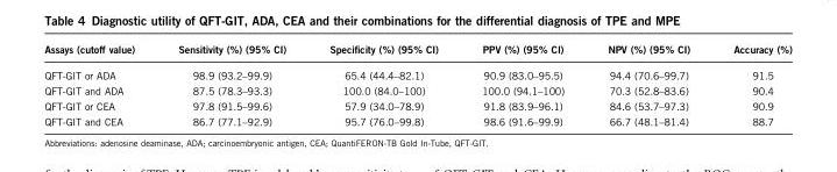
<table><thead><tr><td>Assays (cutoff value)</td><td>Sensitivity (%) (95% CI)</td><td>Specificity (%) (95% CI)</td><td>PPV (%) (95% CI)</td><td>NPV (%) (95% CI)</td><td>Accuracy (%)</td></tr></thead><tbody><tr><td>QFT-GIT or ADA</td><td>98.9 (93.2–99.9)</td><td>65.4 (44.4–82.1)</td><td>90.9 (83.0–95.5)</td><td>94.4 (70.6–99.7)</td><td>91.5</td></tr><tr><td>QFT-GIT and ADA</td><td>87.5 (78.3–93.3)</td><td>100.0 (84.0–100)</td><td>100.0 (94.1–100)</td><td>70.3 (52.8–83.6)</td><td>90.4</td></tr><tr><td>QFT-GIT or CEA</td><td>97.8 (91.5–99.6)</td><td>57.9 (34.0–78.9)</td><td>91.8 (83.9–96.1)</td><td>84.6 (53.7–97.3)</td><td>90.9</td></tr><tr><td>QFT-GIT and CEA</td><td>86.7 (77.1–92.9)</td><td>95.7 (76.0–99.8)</td><td>98.6 (91.6–99.9)</td><td>66.7 (48.1–81.4)</td><td>88.7</td></tr></tbody></table>